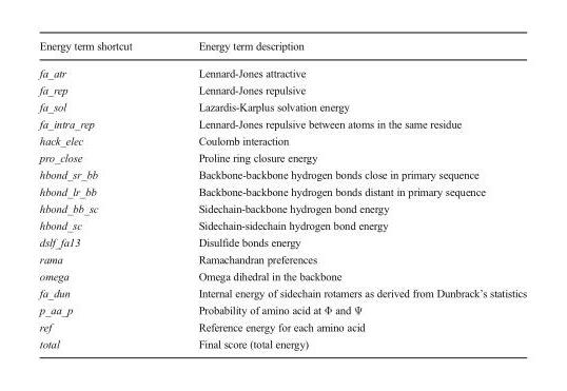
<table><thead><tr><td>Energy term shortcut</td><td>Energy term description</td></tr></thead><tbody><tr><td>fa_atr</td><td>Lennard-Jones attractive</td></tr><tr><td>fa_rep</td><td>Lennard-Jones repulsive</td></tr><tr><td>fa_sol</td><td>Lazardis-Karplus solvation energy</td></tr><tr><td>fa_intra_rep</td><td>Lennard-Jones repulsive between atoms in the same residue</td></tr><tr><td>hack_elec</td><td>Coulomb interaction</td></tr><tr><td>pro_close</td><td>Proline ring closure energy</td></tr><tr><td>hbond_sr_bb</td><td>Backbone-backbone hydrogen bonds close in primary sequence</td></tr><tr><td>hbond_lr_bb</td><td>Backbone-backbone hydrogen bonds distant in primary sequence</td></tr><tr><td>hbond_bb_sc</td><td>Sidechain-backbone hydrogen bond energy</td></tr><tr><td>hbond_sc</td><td>Sidechain-sidechain hydrogen bond energy</td></tr><tr><td>dslf_fa13</td><td>Disulfide bonds energy</td></tr><tr><td>rama</td><td>Ramachandran preferences</td></tr><tr><td>omega</td><td>Omega dihedral in the backbone</td></tr><tr><td>fa_dun</td><td>Internal energy of sidechain rotamers as derived from Dunbrack’s statistics</td></tr><tr><td>p_aa_p</td><td>Probability of amino acid at Φ and Ψ</td></tr><tr><td>ref</td><td>Reference energy for each amino acid</td></tr><tr><td>total</td><td>Final score (total energy)</td></tr></tbody></table>